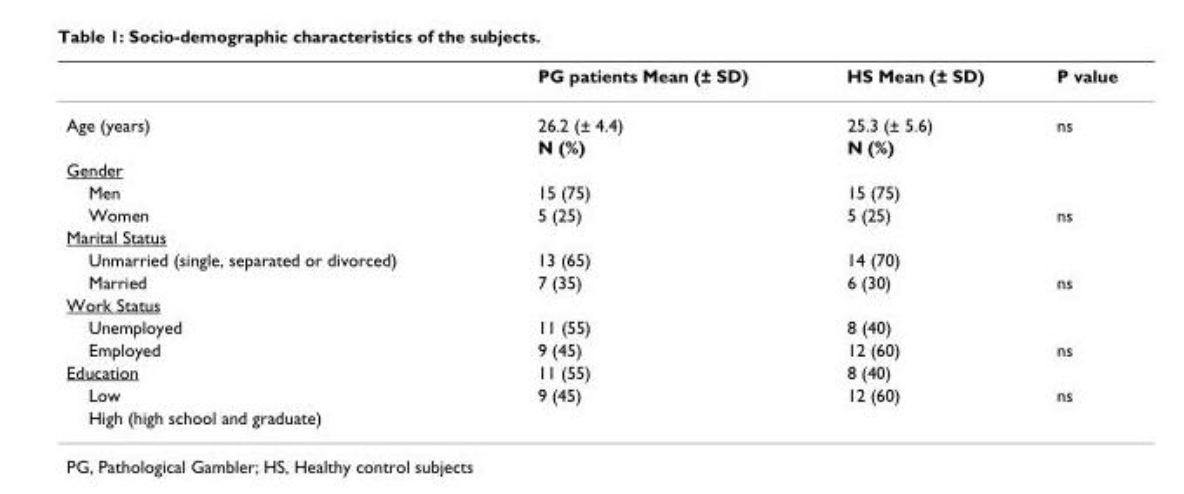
<table><thead><tr><td></td><td>PG patients Mean (± SD)</td><td>HS Mean (± SD)</td><td>P value</td></tr></thead><tbody><tr><td rowspan="2">Age (years)</td><td>26.2 (± 4.4)</td><td>25.3 (± 5.6)</td><td>ns</td></tr><tr><td>N (%)</td><td>N (%)</td><td></td></tr><tr><td colspan="4">Gender</td></tr><tr><td>Men</td><td>15 (75)</td><td>15 (75)</td><td></td></tr><tr><td>Women</td><td>5 (25)</td><td>5 (25)</td><td>ns</td></tr><tr><td colspan="4">Marital Status</td></tr><tr><td>Unmarried (single, separated or divorced)</td><td>13 (65)</td><td>14 (70)</td><td></td></tr><tr><td>Married</td><td>7 (35)</td><td>6 (30)</td><td>ns</td></tr><tr><td colspan="4">Work Status</td></tr><tr><td>Unemployed</td><td>11 (55)</td><td>8 (40)</td><td></td></tr><tr><td>Employed</td><td>9 (45)</td><td>12 (60)</td><td>ns</td></tr><tr><td>Education</td><td>11 (55)</td><td>8 (40)</td><td></td></tr><tr><td>Low</td><td>9 (45)</td><td>12 (60)</td><td>ns</td></tr><tr><td>High (high school and graduate)</td><td></td><td></td><td></td></tr></tbody></table>